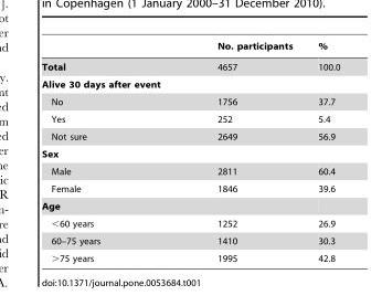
<table><thead><tr><td></td><td>No. participants</td><td>%</td></tr></thead><tbody><tr><td>Total</td><td>4657</td><td>100.0</td></tr><tr><td colspan="3">Alive 30 days after event</td></tr><tr><td>No</td><td>1756</td><td>37.7</td></tr><tr><td>Yes</td><td>252</td><td>5.4</td></tr><tr><td>Not sure</td><td>2649</td><td>56.9</td></tr><tr><td colspan="3">Sex</td></tr><tr><td>Male</td><td>2811</td><td>60.4</td></tr><tr><td>Female</td><td>1846</td><td>39.6</td></tr><tr><td colspan="3">Age</td></tr><tr><td>&lt;60 years</td><td>1252</td><td>26.9</td></tr><tr><td>60–75 years</td><td>1410</td><td>30.3</td></tr><tr><td>&gt;75 years</td><td>1995</td><td>42.8</td></tr></tbody></table>